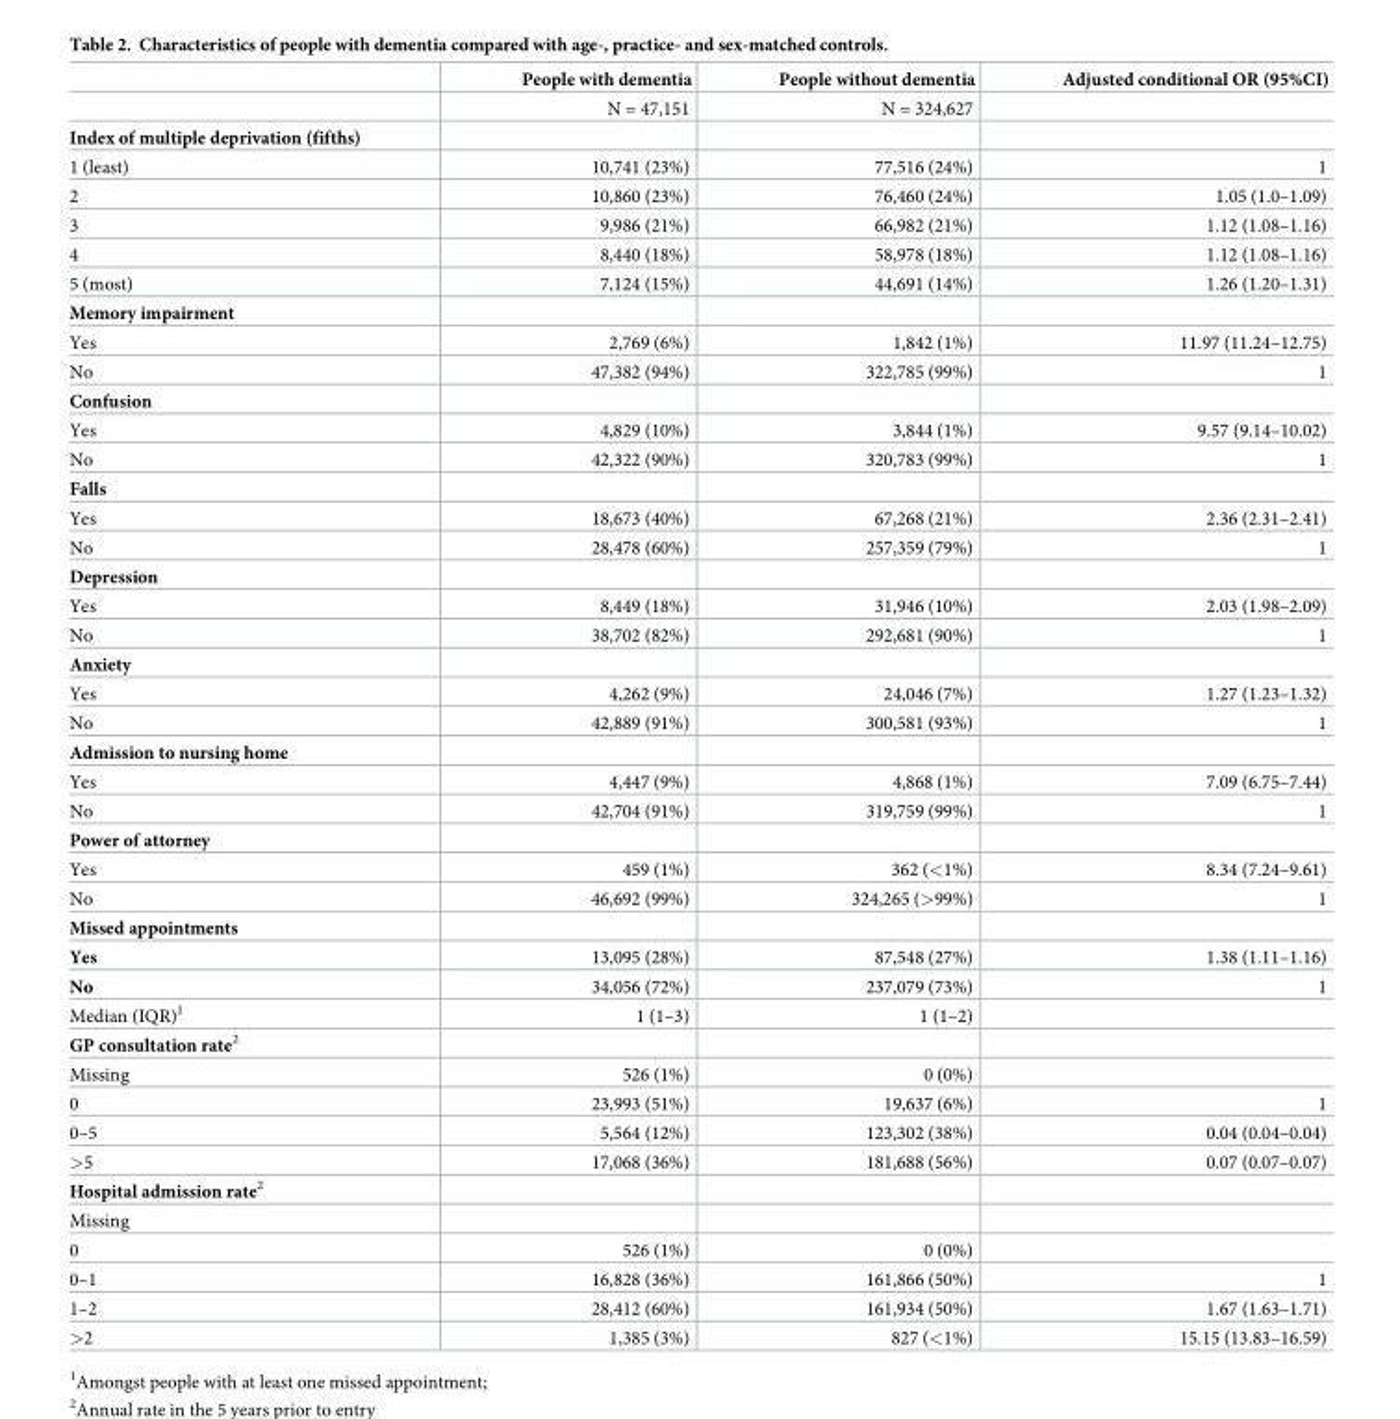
<table><thead><tr><td></td><td>People with dementia</td><td>People without dementia</td><td>Adjusted conditional OR (95%CI)</td></tr></thead><tbody><tr><td></td><td>N = 47,151</td><td>N = 324,627</td><td></td></tr><tr><td colspan="4">Index of multiple deprivation (fifths)</td></tr><tr><td>1 (least)</td><td>10,741 (23%)</td><td>77,516 (24%)</td><td>1</td></tr><tr><td>2</td><td>10,860 (23%)</td><td>76,460 (24%)</td><td>1.05 (1.0–1.09)</td></tr><tr><td>3</td><td>9,986 (21%)</td><td>66,982 (21%)</td><td>1.12 (1.08–1.16)</td></tr><tr><td>4</td><td>8,440 (18%)</td><td>58,978 (18%)</td><td>1.12 (1.08–1.16)</td></tr><tr><td>5 (most)</td><td>7,124 (15%)</td><td>44,691 (14%)</td><td>1.26 (1.20–1.31)</td></tr><tr><td colspan="4">Memory impairment</td></tr><tr><td>Yes</td><td>2,769 (6%)</td><td>1,842 (1%)</td><td>11.97 (11.24–12.75)</td></tr><tr><td>No</td><td>47,382 (94%)</td><td>322,785 (99%)</td><td>1</td></tr><tr><td colspan="4">Confusion</td></tr><tr><td>Yes</td><td>4,829 (10%)</td><td>3,844 (1%)</td><td>9.57 (9.14–10.02)</td></tr><tr><td>No</td><td>42,322 (90%)</td><td>320,783 (99%)</td><td>1</td></tr><tr><td colspan="4">Falls</td></tr><tr><td>Yes</td><td>18,673 (40%)</td><td>67,268 (21%)</td><td>2.36 (2.31–2.41)</td></tr><tr><td>No</td><td>28,478 (60%)</td><td>257,359 (79%)</td><td>1</td></tr><tr><td colspan="4">Depression</td></tr><tr><td>Yes</td><td>8,449 (18%)</td><td>31,946 (10%)</td><td>2.03 (1.98–2.09)</td></tr><tr><td>No</td><td>38,702 (82%)</td><td>292,681 (90%)</td><td>1</td></tr><tr><td colspan="4">Anxiety</td></tr><tr><td>Yes</td><td>4,262 (9%)</td><td>24,046 (7%)</td><td>1.27 (1.23–1.32)</td></tr><tr><td>No</td><td>42,889 (91%)</td><td>300,581 (93%)</td><td>1</td></tr><tr><td colspan="4">Admission to nursing home</td></tr><tr><td>Yes</td><td>4,447 (9%)</td><td>4,868 (1%)</td><td>7.09 (6.75–7.44)</td></tr><tr><td>No</td><td>42,704 (91%)</td><td>319,759 (99%)</td><td>1</td></tr><tr><td colspan="4">Power of attorney</td></tr><tr><td>Yes</td><td>459 (1%)</td><td>362 (&lt;1%)</td><td>8.34 (7.24–9.61)</td></tr><tr><td>No</td><td>46,692 (99%)</td><td>324,265 (&gt;99%)</td><td>1</td></tr><tr><td colspan="4">Missed appointments</td></tr><tr><td>Yes</td><td>13,095 (28%)</td><td>87,548 (27%)</td><td>1.38 (1.11–1.16)</td></tr><tr><td>No</td><td>34,056 (72%)</td><td>237,079 (73%)</td><td>1</td></tr><tr><td>Median (IQR)<sup>1</sup></td><td>1 (1–3)</td><td>1 (1–2)</td><td></td></tr><tr><td colspan="4">GP consultation rate<sup>2</sup></td></tr><tr><td>Missing</td><td>526 (1%)</td><td>0 (0%)</td><td></td></tr><tr><td>0</td><td>23,993 (51%)</td><td>19,637 (6%)</td><td>1</td></tr><tr><td>0–5</td><td>5,564 (12%)</td><td>123,302 (38%)</td><td>0.04 (0.04–0.04)</td></tr><tr><td>&gt;5</td><td>17,068 (36%)</td><td>181,688 (56%)</td><td>0.07 (0.07–0.07)</td></tr><tr><td colspan="4">Hospital admission rate<sup>2</sup></td></tr><tr><td colspan="4">Missing</td></tr><tr><td>0</td><td>526 (1%)</td><td>0 (0%)</td><td></td></tr><tr><td>0–1</td><td>16,828 (36%)</td><td>161,866 (50%)</td><td>1</td></tr><tr><td>1–2</td><td>28,412 (60%)</td><td>161,934 (50%)</td><td>1.67 (1.63–1.71)</td></tr><tr><td>&gt;2</td><td>1,385 (3%)</td><td>827 (&lt;1%)</td><td>15.15 (13.83–16.59)</td></tr></tbody></table>